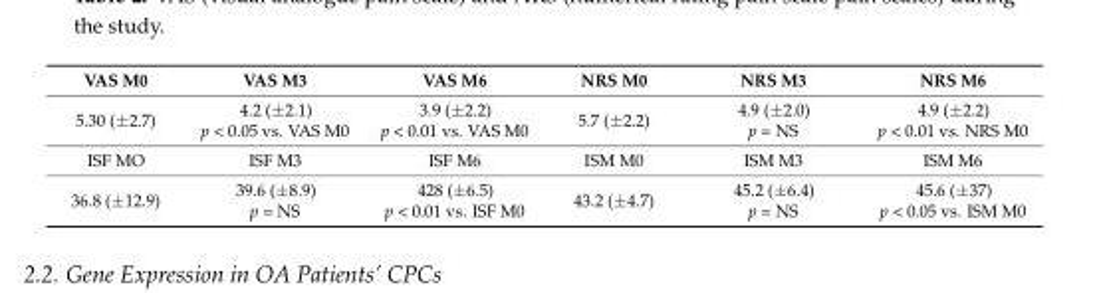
<table><thead><tr><td>VAS M0</td><td>VAS M3</td><td>VAS M6</td><td>NRS M0</td><td>NRS M3</td><td>NRS M6</td></tr></thead><tbody><tr><td>5.30 (±2.7)</td><td>4.2 (±2.1) p &lt; 0.05 vs. VAS M0</td><td>3.9 (±2.2) p &lt; 0.01 vs. VAS M0</td><td>5.7 (±2.2)</td><td>4.9 (±2.0) p = NS</td><td>4.9 (±2.2) p &lt; 0.01 vs. NRS M0</td></tr><tr><td>ISF MO</td><td>ISF M3</td><td>ISF M6</td><td>ISM M0</td><td>ISM M3</td><td>ISM M6</td></tr><tr><td>36.8 (±12.9)</td><td>39.6 (±8.9) p = NS</td><td>428 (±6.5) p &lt; 0.01 vs. ISF M0</td><td>43.2 (±4.7)</td><td>45.2 (±6.4) p = NS</td><td>45.6 (±37) p &lt; 0.05 vs. ISM M0</td></tr></tbody></table>